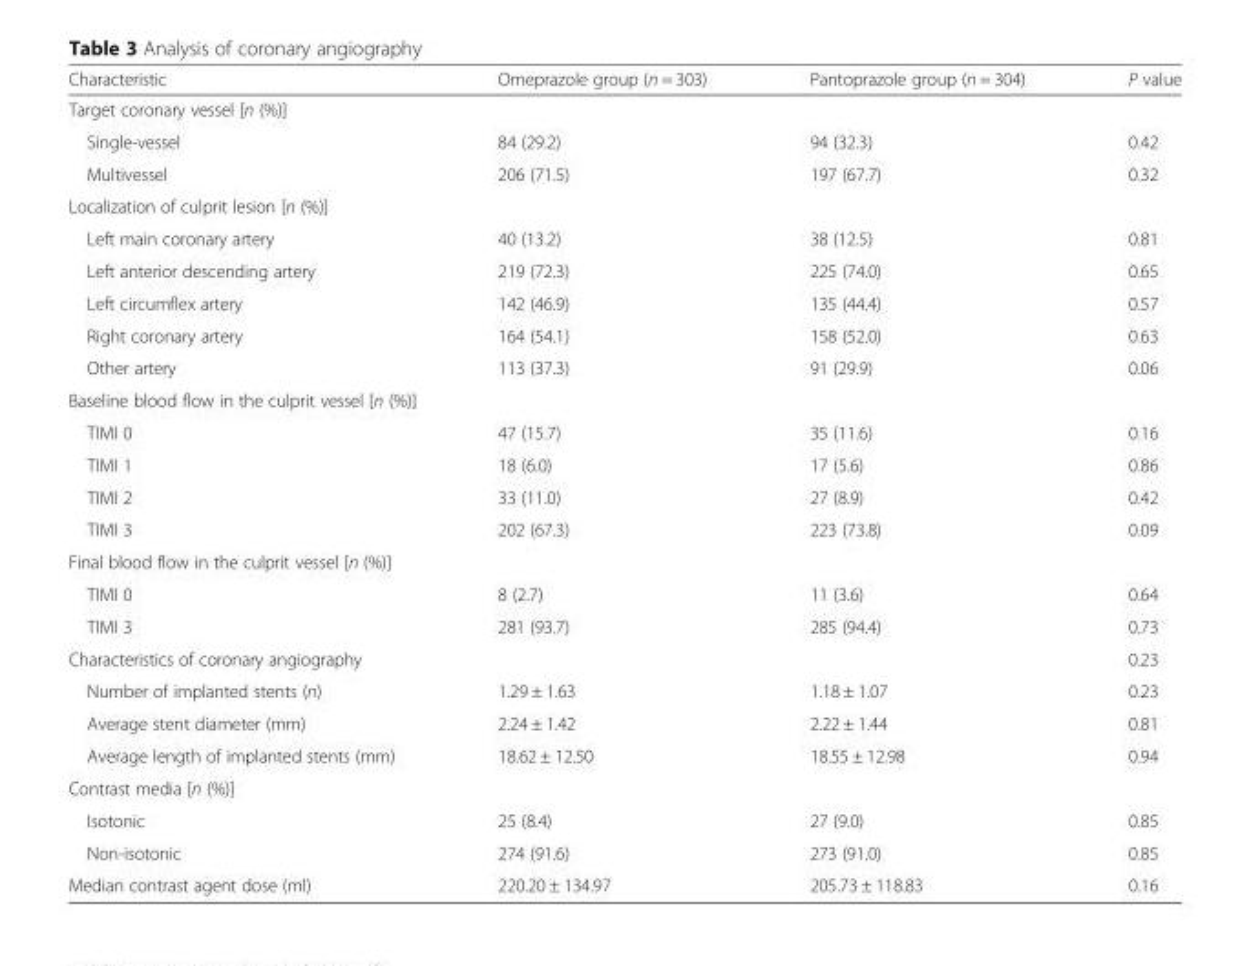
<table><thead><tr><td>Characteristic</td><td>Omeprazole group (n = 303)</td><td>Pantoprazole group (n = 304)</td><td>P value</td></tr></thead><tbody><tr><td colspan="4">Target coronary vessel [n (%)]</td></tr><tr><td>Single-vessel</td><td>84 (29.2)</td><td>94 (32.3)</td><td>0.42</td></tr><tr><td>Multivessel</td><td>206 (71.5)</td><td>197 (67.7)</td><td>0.32</td></tr><tr><td colspan="4">Localization of culprit lesion [n (%)]</td></tr><tr><td>Left main coronary artery</td><td>40 (13.2)</td><td>38 (12.5)</td><td>0.81</td></tr><tr><td>Left anterior descending artery</td><td>219 (72.3)</td><td>225 (74.0)</td><td>0.65</td></tr><tr><td>Left circumflex artery</td><td>142 (46.9)</td><td>135 (44.4)</td><td>0.57</td></tr><tr><td>Right coronary artery</td><td>164 (54.1)</td><td>158 (52.0)</td><td>0.63</td></tr><tr><td>Other artery</td><td>113 (37.3)</td><td>91 (29.9)</td><td>0.06</td></tr><tr><td colspan="4">Baseline blood flow in the culprit vessel [n (%)]</td></tr><tr><td>TIMI 0</td><td>47 (15.7)</td><td>35 (11.6)</td><td>0.16</td></tr><tr><td>TIMI 1</td><td>18 (6.0)</td><td>17 (5.6)</td><td>0.86</td></tr><tr><td>TIMI 2</td><td>33 (11.0)</td><td>27 (8.9)</td><td>0.42</td></tr><tr><td>TIMI 3</td><td>202 (67.3)</td><td>223 (73.8)</td><td>0.09</td></tr><tr><td colspan="4">Final blood flow in the culprit vessel [n (%)]</td></tr><tr><td>TIMI 0</td><td>8 (2.7)</td><td>11 (3.6)</td><td>0.64</td></tr><tr><td>TIMI 3</td><td>281 (93.7)</td><td>285 (94.4)</td><td>0.73</td></tr><tr><td colspan="3">Characteristics of coronary angiography</td><td>0.23</td></tr><tr><td>Number of implanted stents (n)</td><td>1.29 ± 1.63</td><td>1.18 ± 1.07</td><td>0.23</td></tr><tr><td>Average stent diameter (mm)</td><td>2.24 ± 1.42</td><td>2.22 ± 1.44</td><td>0.81</td></tr><tr><td>Average length of implanted stents (mm)</td><td>18.62 ± 12.50</td><td>18.55 ± 12.98</td><td>0.94</td></tr><tr><td colspan="4">Contrast media [n (%)]</td></tr><tr><td>Isotonic</td><td>25 (8.4)</td><td>27 (9.0)</td><td>0.85</td></tr><tr><td>Non-isotonic</td><td>274 (91.6)</td><td>273 (91.0)</td><td>0.85</td></tr><tr><td>Median contrast agent dose (ml)</td><td>220.20 ± 134.97</td><td>205.73 ± 118.83</td><td>0.16</td></tr></tbody></table>